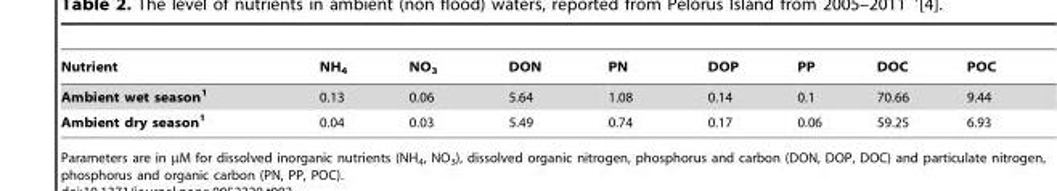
<table><thead><tr><td>Nutrient</td><td>NH<sub>4</sub></td><td>NO<sub>3</sub></td><td>DON</td><td>PN</td><td>DOP</td><td>PP</td><td>DOC</td><td>POC</td></tr></thead><tbody><tr><td>Ambient wet season<sup>1</sup></td><td>0.13</td><td>0.06</td><td>5.64</td><td>1.08</td><td>0.14</td><td>0.1</td><td>70.66</td><td>9.44</td></tr><tr><td>Ambient dry season<sup>1</sup></td><td>0.04</td><td>0.03</td><td>5.49</td><td>0.74</td><td>0.17</td><td>0.06</td><td>59.25</td><td>6.93</td></tr></tbody></table>